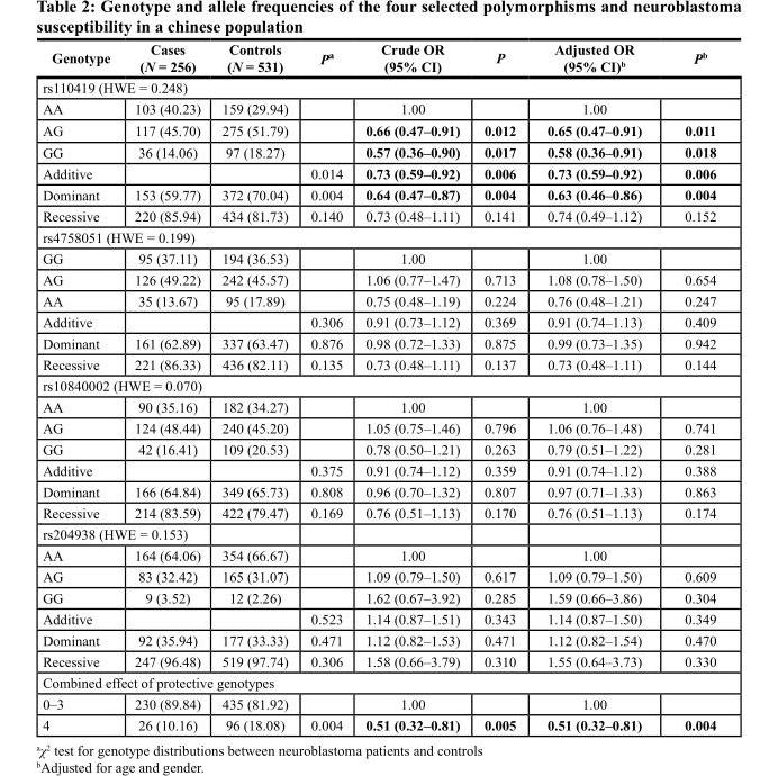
<table><thead><tr><td>Genotype</td><td>Cases (N = 256)</td><td>Controls (N = 531)</td><td>P<sup>a</sup></td><td>Crude OR (95% CI)</td><td>P</td><td>Adjusted OR (95% CI)<sup>b</sup></td><td>P<sup>b</sup></td></tr></thead><tbody><tr><td colspan="8">rs110419 (HWE = 0.248)</td></tr><tr><td>AA</td><td>103 (40.23)</td><td>159 (29.94)</td><td></td><td>1.00</td><td></td><td>1.00</td><td></td></tr><tr><td>AG</td><td>117 (45.70)</td><td>275 (51.79)</td><td></td><td>0.66 (0.47–0.91)</td><td>0.012</td><td>0.65 (0.47–0.91)</td><td>0.011</td></tr><tr><td>GG</td><td>36 (14.06)</td><td>97 (18.27)</td><td></td><td>0.57 (0.36–0.90)</td><td>0.017</td><td>0.58 (0.36–0.91)</td><td>0.018</td></tr><tr><td>Additive</td><td></td><td></td><td>0.014</td><td>0.73 (0.59–0.92)</td><td>0.006</td><td>0.73 (0.59–0.92)</td><td>0.006</td></tr><tr><td>Dominant</td><td>153 (59.77)</td><td>372 (70.04)</td><td>0.004</td><td>0.64 (0.47–0.87)</td><td>0.004</td><td>0.63 (0.46–0.86)</td><td>0.004</td></tr><tr><td>Recessive</td><td>220 (85.94)</td><td>434 (81.73)</td><td>0.140</td><td>0.73 (0.48–1.11)</td><td>0.141</td><td>0.74 (0.49–1.12)</td><td>0.152</td></tr><tr><td colspan="8">rs4758051 (HWE = 0.199)</td></tr><tr><td>GG</td><td>95 (37.11)</td><td>194 (36.53)</td><td></td><td>1.00</td><td></td><td>1.00</td><td></td></tr><tr><td>AG</td><td>126 (49.22)</td><td>242 (45.57)</td><td></td><td>1.06 (0.77–1.47)</td><td>0.713</td><td>1.08 (0.78–1.50)</td><td>0.654</td></tr><tr><td>AA</td><td>35 (13.67)</td><td>95 (17.89)</td><td></td><td>0.75 (0.48–1.19)</td><td>0.224</td><td>0.76 (0.48–1.21)</td><td>0.247</td></tr><tr><td>Additive</td><td></td><td></td><td>0.306</td><td>0.91 (0.73–1.12)</td><td>0.369</td><td>0.91 (0.74–1.13)</td><td>0.409</td></tr><tr><td>Dominant</td><td>161 (62.89)</td><td>337 (63.47)</td><td>0.876</td><td>0.98 (0.72–1.33)</td><td>0.875</td><td>0.99 (0.73–1.35)</td><td>0.942</td></tr><tr><td>Recessive</td><td>221 (86.33)</td><td>436 (82.11)</td><td>0.135</td><td>0.73 (0.48–1.11)</td><td>0.137</td><td>0.73 (0.48–1.11)</td><td>0.144</td></tr><tr><td colspan="8">rs10840002 (HWE = 0.070)</td></tr><tr><td>AA</td><td>90 (35.16)</td><td>182 (34.27)</td><td></td><td>1.00</td><td></td><td>1.00</td><td></td></tr><tr><td>AG</td><td>124 (48.44)</td><td>240 (45.20)</td><td></td><td>1.05 (0.75–1.46)</td><td>0.796</td><td>1.06 (0.76–1.48)</td><td>0.741</td></tr><tr><td>GG</td><td>42 (16.41)</td><td>109 (20.53)</td><td></td><td>0.78 (0.50–1.21)</td><td>0.263</td><td>0.79 (0.51–1.22)</td><td>0.281</td></tr><tr><td>Additive</td><td></td><td></td><td>0.375</td><td>0.91 (0.74–1.12)</td><td>0.359</td><td>0.91 (0.74–1.12)</td><td>0.388</td></tr><tr><td>Dominant</td><td>166 (64.84)</td><td>349 (65.73)</td><td>0.808</td><td>0.96 (0.70–1.32)</td><td>0.807</td><td>0.97 (0.71–1.33)</td><td>0.863</td></tr><tr><td>Recessive</td><td>214 (83.59)</td><td>422 (79.47)</td><td>0.169</td><td>0.76 (0.51–1.13)</td><td>0.170</td><td>0.76 (0.51–1.13)</td><td>0.174</td></tr><tr><td colspan="8">rs204938 (HWE = 0.153)</td></tr><tr><td>AA</td><td>164 (64.06)</td><td>354 (66.67)</td><td></td><td>1.00</td><td></td><td>1.00</td><td></td></tr><tr><td>AG</td><td>83 (32.42)</td><td>165 (31.07)</td><td></td><td>1.09 (0.79–1.50)</td><td>0.617</td><td>1.09 (0.79–1.50)</td><td>0.609</td></tr><tr><td>GG</td><td>9 (3.52)</td><td>12 (2.26)</td><td></td><td>1.62 (0.67–3.92)</td><td>0.285</td><td>1.59 (0.66–3.86)</td><td>0.304</td></tr><tr><td>Additive</td><td></td><td></td><td>0.523</td><td>1.14 (0.87–1.51)</td><td>0.343</td><td>1.14 (0.87–1.50)</td><td>0.349</td></tr><tr><td>Dominant</td><td>92 (35.94)</td><td>177 (33.33)</td><td>0.471</td><td>1.12 (0.82–1.53)</td><td>0.471</td><td>1.12 (0.82–1.54)</td><td>0.470</td></tr><tr><td>Recessive</td><td>247 (96.48)</td><td>519 (97.74)</td><td>0.306</td><td>1.58 (0.66–3.79)</td><td>0.310</td><td>1.55 (0.64–3.73)</td><td>0.330</td></tr><tr><td colspan="8">Combined effect of protective genotypes</td></tr><tr><td>0–3</td><td>230 (89.84)</td><td>435 (81.92)</td><td></td><td>1.00</td><td></td><td>1.00</td><td></td></tr><tr><td>4</td><td>26 (10.16)</td><td>96 (18.08)</td><td>0.004</td><td>0.51 (0.32–0.81)</td><td>0.005</td><td>0.51 (0.32–0.81)</td><td>0.004</td></tr></tbody></table>